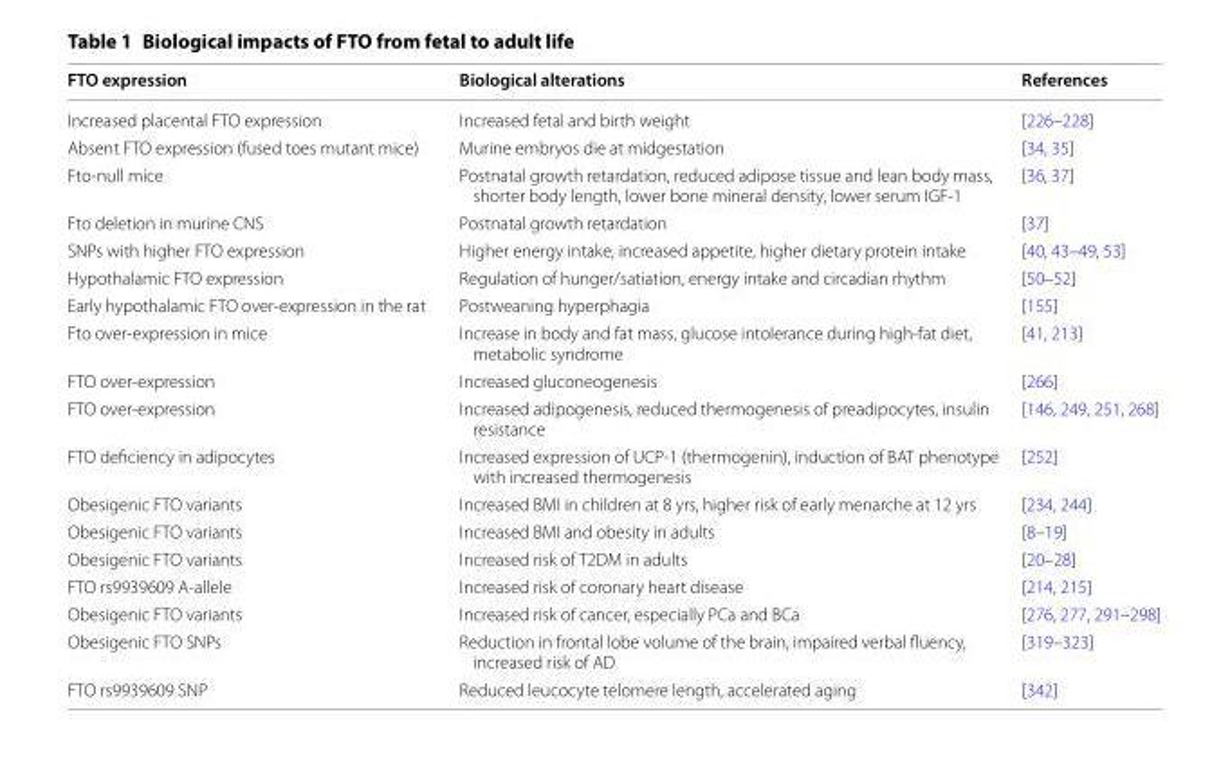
<table><thead><tr><td>FTO expression</td><td>Biological alterations</td><td>References</td></tr></thead><tbody><tr><td>Increased placental FTO expression</td><td>Increased fetal and birth weight</td><td>[226–228]</td></tr><tr><td>Absent FTO expression (fused toes mutant mice)</td><td>Murine embryos die at midgestation</td><td>[34, 35]</td></tr><tr><td>Fto-null mice</td><td>Postnatal growth retardation, reduced adipose tissue and lean body mass, shorter body length, lower bone mineral density, lower serum IGF-1</td><td>[36, 37]</td></tr><tr><td>Fto deletion in murine CNS</td><td>Postnatal growth retardation</td><td>[37]</td></tr><tr><td>SNPs with higher FTO expression</td><td>Higher energy intake, increased appetite, higher dietary protein intake</td><td>[40, 43–49, 53]</td></tr><tr><td>Hypothalamic FTO expression</td><td>Regulation of hunger/satiation, energy intake and circadian rhythm</td><td>[50–52]</td></tr><tr><td>Early hypothalamic FTO over-expression in the rat</td><td>Postweaning hyperphagia</td><td>[155]</td></tr><tr><td>Fto over-expression in mice</td><td>Increase in body and fat mass, glucose intolerance during high-fat diet, metabolic syndrome</td><td>[41, 213]</td></tr><tr><td>FTO over-expression</td><td>Increased gluconeogenesis</td><td>[266]</td></tr><tr><td>FTO over-expression</td><td>Increased adipogenesis, reduced thermogenesis of preadipocytes, insulin resistance</td><td>[146, 249, 251, 268]</td></tr><tr><td>FTO deficiency in adipocytes</td><td>Increased expression of UCP-1 (thermogenin), induction of BAT phenotype with increased thermogenesis</td><td>[252]</td></tr><tr><td>Obesigenic FTO variants</td><td>Increased BMI in children at 8 yrs, higher risk of early menarche at 12 yrs</td><td>[234, 244]</td></tr><tr><td>Obesigenic FTO variants</td><td>Increased BMI and obesity in adults</td><td>[8–19]</td></tr><tr><td>Obesigenic FTO variants</td><td>Increased risk of T2DM in adults</td><td>[20–28]</td></tr><tr><td>FTO rs9939609 A-allele</td><td>Increased risk of coronary heart disease</td><td>[214, 215]</td></tr><tr><td>Obesigenic FTO variants</td><td>Increased risk of cancer, especially PCa and BCa</td><td>[276, 277, 291–298]</td></tr><tr><td>Obesigenic FTO SNPs</td><td>Reduction in frontal lobe volume of the brain, impaired verbal fluency, increased risk of AD</td><td>[319–323]</td></tr><tr><td>FTO rs9939609 SNP</td><td>Reduced leucocyte telomere length, accelerated aging</td><td>[342]</td></tr></tbody></table>